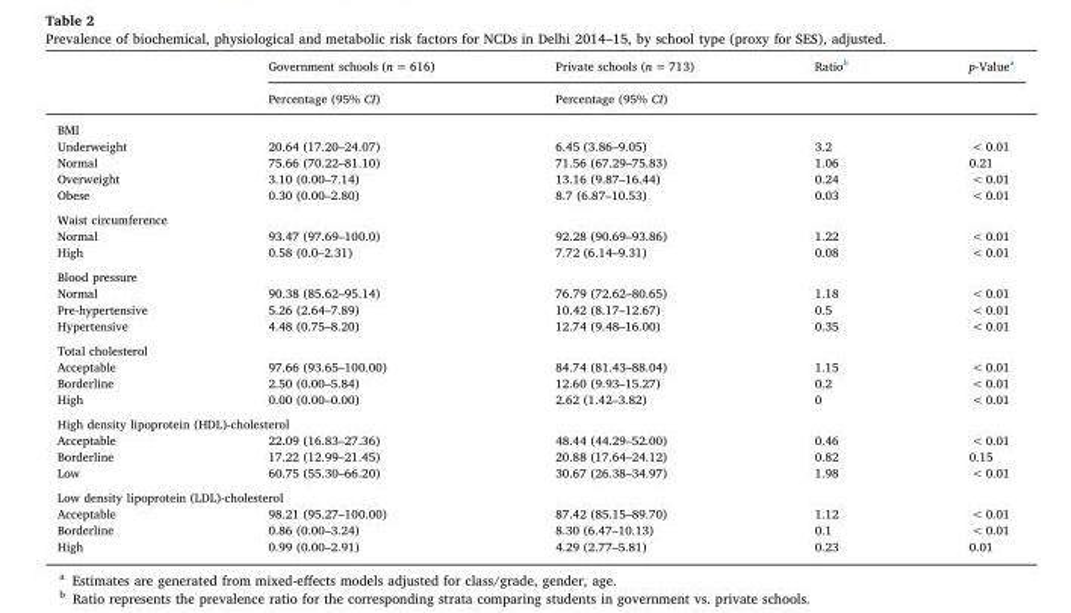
<table><thead><tr><td rowspan="2"></td><td rowspan="2">Government schools (n = 616) Percentage (95% CI)</td><td rowspan="2">Private schools (n = 713) Percentage (95% CI)</td><td rowspan="2">Ratio<sup>b</sup></td><td rowspan="2">p-Value<sup>a</sup></td></tr><tr></tr></thead><tbody><tr><td colspan="5">BMI</td></tr><tr><td>Underweight</td><td>20.64 (17.20–24.07)</td><td>6.45 (3.86–9.05)</td><td>3.2</td><td>&lt; 0.01</td></tr><tr><td>Normal</td><td>75.66 (70.22–81.10)</td><td>71.56 (67.29–75.83)</td><td>1.06</td><td>0.21</td></tr><tr><td>Overweight</td><td>3.10 (0.00–7.14)</td><td>13.16 (9.87–16.44)</td><td>0.24</td><td>&lt; 0.01</td></tr><tr><td>Obese</td><td>0.30 (0.00–2.80)</td><td>8.7 (6.87–10.53)</td><td>0.03</td><td>&lt; 0.01</td></tr><tr><td colspan="5">Waist circumference</td></tr><tr><td>Normal</td><td>93.47 (97.69–100.0)</td><td>92.28 (90.69–93.86)</td><td>1.22</td><td>&lt; 0.01</td></tr><tr><td>High</td><td>0.58 (0.0–2.31)</td><td>7.72 (6.14–9.31)</td><td>0.08</td><td>&lt; 0.01</td></tr><tr><td colspan="5">Blood pressure</td></tr><tr><td>Normal</td><td>90.38 (85.62–95.14)</td><td>76.79 (72.62–80.65)</td><td>1.18</td><td>&lt; 0.01</td></tr><tr><td>Pre-hypertensive</td><td>5.26 (2.64–7.89)</td><td>10.42 (8.17–12.67)</td><td>0.5</td><td>&lt; 0.01</td></tr><tr><td>Hypertensive</td><td>4.48 (0.75–8.20)</td><td>12.74 (9.48–16.00)</td><td>0.35</td><td>&lt; 0.01</td></tr><tr><td colspan="5">Total cholesterol</td></tr><tr><td>Acceptable</td><td>97.66 (93.65–100.00)</td><td>84.74 (81.43–88.04)</td><td>1.15</td><td>&lt; 0.01</td></tr><tr><td>Borderline</td><td>2.50 (0.00–5.84)</td><td>12.60 (9.93–15.27)</td><td>0.2</td><td>&lt; 0.01</td></tr><tr><td>High</td><td>0.00 (0.00–0.00)</td><td>2.62 (1.42–3.82)</td><td>0</td><td>&lt; 0.01</td></tr><tr><td colspan="5">High density lipoprotein (HDL)-cholesterol</td></tr><tr><td>Acceptable</td><td>22.09 (16.83–27.36)</td><td>48.44 (44.29–52.00)</td><td>0.46</td><td>&lt; 0.01</td></tr><tr><td>Borderline</td><td>17.22 (12.99–21.45)</td><td>20.88 (17.64–24.12)</td><td>0.82</td><td>0.15</td></tr><tr><td>Low</td><td>60.75 (55.30–66.20)</td><td>30.67 (26.38–34.97)</td><td>1.98</td><td>&lt; 0.01</td></tr><tr><td colspan="5">Low density lipoprotein (LDL)-cholesterol</td></tr><tr><td>Acceptable</td><td>98.21 (95.27–100.00)</td><td>87.42 (85.15–89.70)</td><td>1.12</td><td>&lt; 0.01</td></tr><tr><td>Borderline</td><td>0.86 (0.00–3.24)</td><td>8.30 (6.47–10.13)</td><td>0.1</td><td>&lt; 0.01</td></tr><tr><td>High</td><td>0.99 (0.00–2.91)</td><td>4.29 (2.77–5.81)</td><td>0.23</td><td>0.01</td></tr></tbody></table>